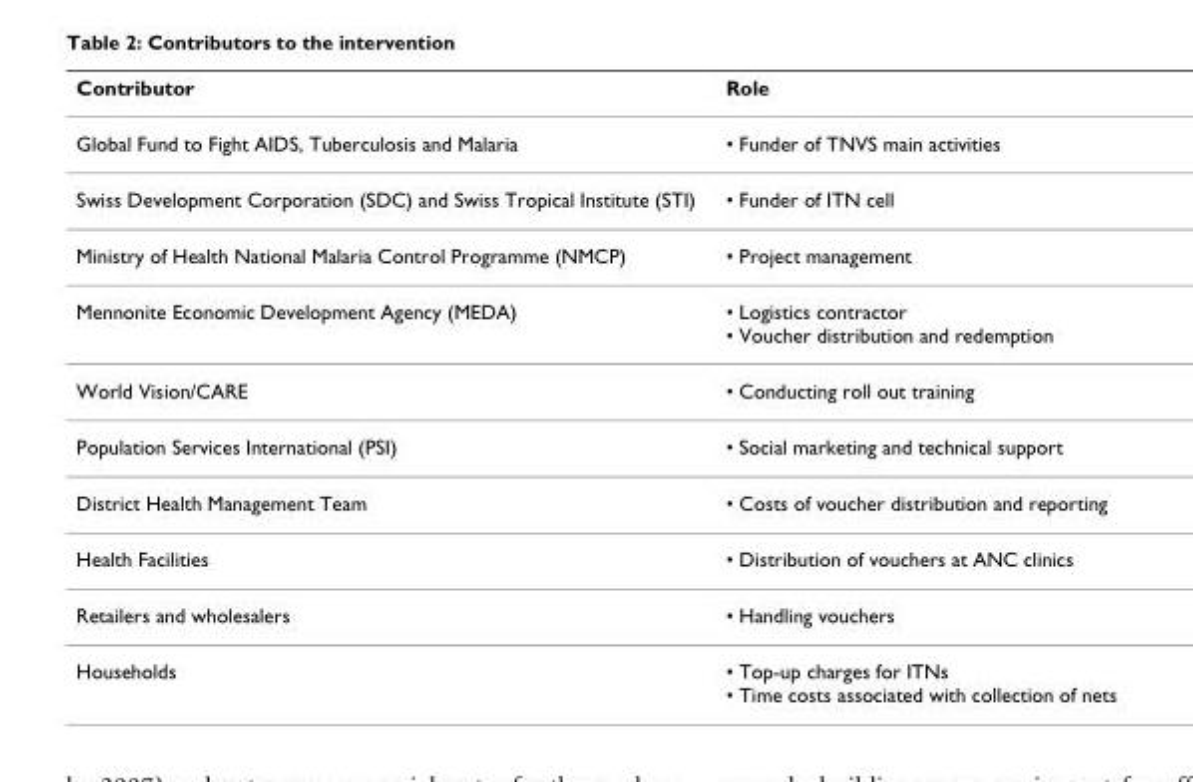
<table><thead><tr><td>Contributor</td><td>Role</td></tr></thead><tbody><tr><td>Global Fund to Fight AIDS, Tuberculosis and Malaria</td><td>• Funder of TNVS main activities</td></tr><tr><td>Swiss Development Corporation (SDC) and Swiss Tropical Institute (STI)</td><td>• Funder of ITN cell</td></tr><tr><td>Ministry of Health National Malaria Control Programme (NMCP)</td><td>• Project management</td></tr><tr><td>Mennonite Economic Development Agency (MEDA)</td><td>• Logistics contractor • Voucher distribution and redemption</td></tr><tr><td>World Vision/CARE</td><td>• Conducting roll out training</td></tr><tr><td>Population Services International (PSI)</td><td>• Social marketing and technical support</td></tr><tr><td>District Health Management Team</td><td>• Costs of voucher distribution and reporting</td></tr><tr><td>Health Facilities</td><td>• Distribution of vouchers at ANC clinics</td></tr><tr><td>Retailers and wholesalers</td><td>• Handling vouchers</td></tr><tr><td>Households</td><td>• Top-up charges for ITNs • Time costs associated with collection of nets</td></tr></tbody></table>